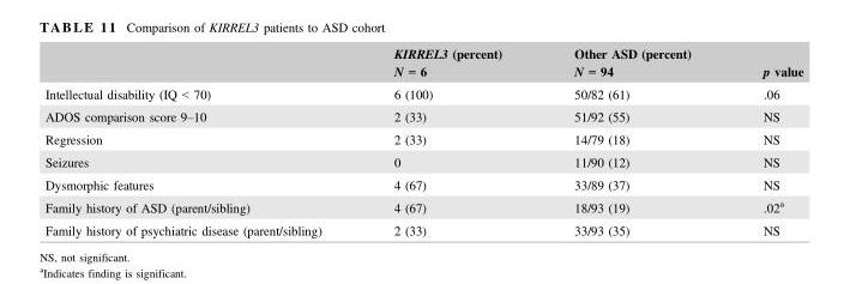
<table><thead><tr><td></td><td>KIRREL3 (percent) N = 6</td><td>Other ASD (percent) N = 94</td><td>p value</td></tr></thead><tbody><tr><td>Intellectual disability (IQ &lt; 70)</td><td>6 (100)</td><td>50/82 (61)</td><td>.06</td></tr><tr><td>ADOS comparison score 9–10</td><td>2 (33)</td><td>51/92 (55)</td><td>NS</td></tr><tr><td>Regression</td><td>2 (33)</td><td>14/79 (18)</td><td>NS</td></tr><tr><td>Seizures</td><td>0</td><td>11/90 (12)</td><td>NS</td></tr><tr><td>Dysmorphic features</td><td>4 (67)</td><td>33/89 (37)</td><td>NS</td></tr><tr><td>Family history of ASD (parent/sibling)</td><td>4 (67)</td><td>18/93 (19)</td><td>.02<sup>a</sup></td></tr><tr><td>Family history of psychiatric disease (parent/sibling)</td><td>2 (33)</td><td>33/93 (35)</td><td>NS</td></tr></tbody></table>